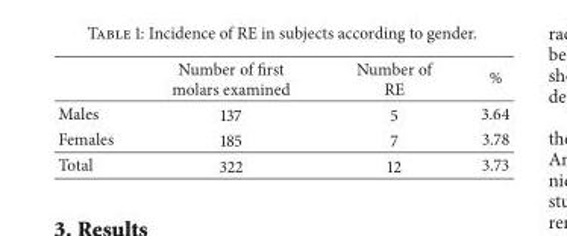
<table><thead><tr><td></td><td>Number of first molars examined</td><td>Number of RE</td><td>%</td></tr></thead><tbody><tr><td>Males</td><td>137</td><td>5</td><td>3.64</td></tr><tr><td>Females</td><td>185</td><td>7</td><td>3.78</td></tr><tr><td>Total</td><td>322</td><td>12</td><td>3.73</td></tr></tbody></table>